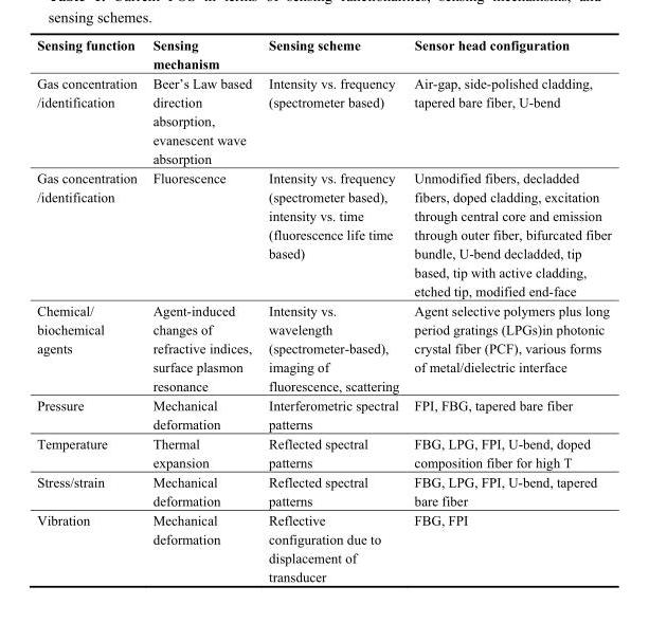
<table><tbody><tr><td>Sensing function</td><td>Sensing mechanism</td><td>Sensing scheme</td><td>Sensor head configuration</td></tr><tr><td>Gas concentration /identification</td><td>Beer’s Law based direction absorption, evanescent wave absorption</td><td>Intensity vs. frequency (spectrometer based)</td><td>Air-gap, side-polished cladding, tapered bare fiber, U-bend</td></tr><tr><td>Gas concentration /identification</td><td>Fluorescence</td><td>Intensity vs. frequency (spectrometer based), intensity vs. time (fluorescence life time based)</td><td>Unmodified fibers, decladded fibers, doped cladding, excitation through central core and emission through outer fiber, bifurcated fiber bundle, U-bend decladded, tip based, tip with active cladding, etched tip, modified end-face</td></tr><tr><td>Chemical/ biochemical agents</td><td>Agent-induced changes of refractive indices, surface plasmon resonance</td><td>Intensity vs. wavelength (spectrometer-based), imaging of fluorescence, scattering</td><td>Agent selective polymers plus long period gratings (LPGs)in photonic crystal fiber (PCF), various forms of metal/dielectric interface</td></tr><tr><td>Pressure</td><td>Mechanical deformation</td><td>Interferometric spectral patterns</td><td>FPI, FBG, tapered bare fiber</td></tr><tr><td>Temperature</td><td>Thermal expansion</td><td>Reflected spectral patterns</td><td>FBG, LPG, FPI, U-bend, doped composition fiber for high T</td></tr><tr><td>Stress/strain</td><td>Mechanical deformation</td><td>Reflected spectral patterns</td><td>FBG, LPG, FPI, U-bend, tapered bare fiber</td></tr><tr><td>Vibration</td><td>Mechanical deformation</td><td>Reflective configuration due to displacement of transducer</td><td>FBG, FPI</td></tr></tbody></table>